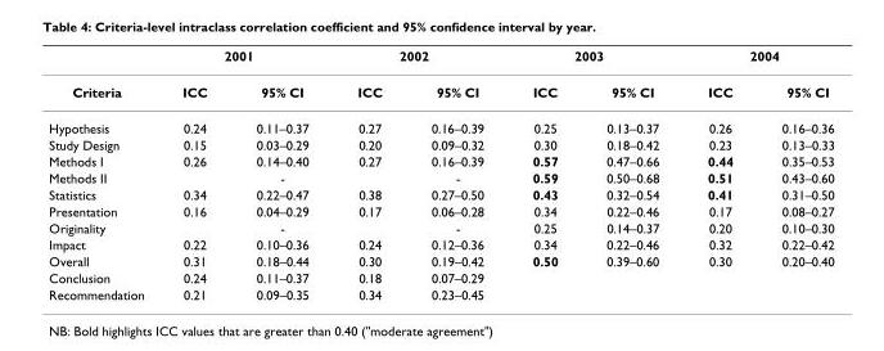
<table><thead><tr><td rowspan="2">Criteria</td><td colspan="2">2001</td><td colspan="2">2002</td><td colspan="2">2003</td><td colspan="2">2004</td></tr><tr><td>ICC</td><td>95% CI</td><td>ICC</td><td>95% CI</td><td>ICC</td><td>95% CI</td><td>ICC</td><td>95% CI</td></tr></thead><tbody><tr><td>Hypothesis</td><td>0.24</td><td>0.11–0.37</td><td>0.27</td><td>0.16–0.39</td><td>0.25</td><td>0.13–0.37</td><td>0.26</td><td>0.16–0.36</td></tr><tr><td>Study Design</td><td>0.15</td><td>0.03–0.29</td><td>0.20</td><td>0.09–0.32</td><td>0.30</td><td>0.18–0.42</td><td>0.23</td><td>0.13–0.33</td></tr><tr><td>Methods I</td><td>0.26</td><td>0.14–0.40</td><td>0.27</td><td>0.16–0.39</td><td>0.57</td><td>0.47–0.66</td><td>0.44</td><td>0.35–0.53</td></tr><tr><td>Methods II</td><td></td><td>-</td><td></td><td>-</td><td>0.59</td><td>0.50–0.68</td><td>0.51</td><td>0.43–0.60</td></tr><tr><td>Statistics</td><td>0.34</td><td>0.22–0.47</td><td>0.38</td><td>0.27–0.50</td><td>0.43</td><td>0.32–0.54</td><td>0.41</td><td>0.31–0.50</td></tr><tr><td>Presentation</td><td>0.16</td><td>0.04–0.29</td><td>0.17</td><td>0.06–0.28</td><td>0.34</td><td>0.22–0.46</td><td>0.17</td><td>0.08–0.27</td></tr><tr><td>Originality</td><td></td><td>-</td><td></td><td>-</td><td>0.25</td><td>0.14–0.37</td><td>0.20</td><td>0.10–0.30</td></tr><tr><td>Impact</td><td>0.22</td><td>0.10–0.36</td><td>0.24</td><td>0.12–0.36</td><td>0.34</td><td>0.22–0.46</td><td>0.32</td><td>0.22–0.42</td></tr><tr><td>Overall</td><td>0.31</td><td>0.18–0.44</td><td>0.30</td><td>0.19–0.42</td><td>0.50</td><td>0.39–0.60</td><td>0.30</td><td>0.20–0.40</td></tr><tr><td>Conclusion</td><td>0.24</td><td>0.11–0.37</td><td>0.18</td><td>0.07–0.29</td><td></td><td></td><td></td><td></td></tr><tr><td>Recommendation</td><td>0.21</td><td>0.09–0.35</td><td>0.34</td><td>0.23–0.45</td><td></td><td></td><td></td><td></td></tr></tbody></table>